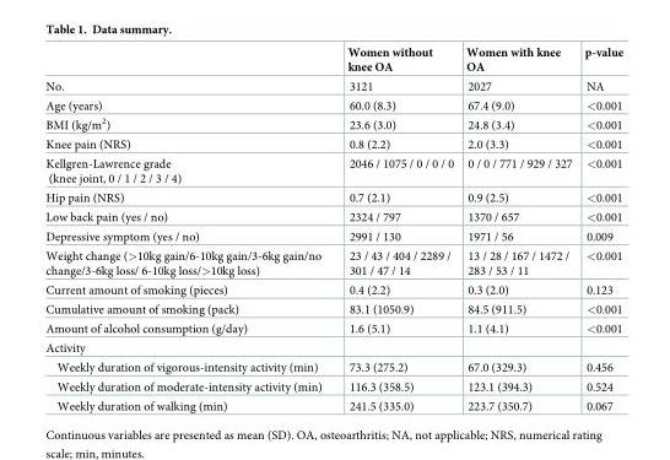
<table><thead><tr><td></td><td>Women without knee OA</td><td>Women with knee OA</td><td>p-value</td></tr></thead><tbody><tr><td>No.</td><td>3121</td><td>2027</td><td>NA</td></tr><tr><td>Age (years)</td><td>60.0 (8.3)</td><td>67.4 (9.0)</td><td>&lt;0.001</td></tr><tr><td>BMI (kg/m<sup>2</sup>)</td><td>23.6 (3.0)</td><td>24.8 (3.4)</td><td>&lt;0.001</td></tr><tr><td>Knee pain (NRS)</td><td>0.8 (2.2)</td><td>2.0 (3.3)</td><td>&lt;0.001</td></tr><tr><td>Kellgren-Lawrence grade (knee joint, 0 / 1 / 2 / 3 / 4)</td><td>2046 / 1075 / 0 / 0 / 0</td><td>0 / 0 / 771 / 929 / 327</td><td>&lt;0.001</td></tr><tr><td>Hip pain (NRS)</td><td>0.7 (2.1)</td><td>0.9 (2.5)</td><td>&lt;0.001</td></tr><tr><td>Low back pain (yes / no)</td><td>2324 / 797</td><td>1370 / 657</td><td>&lt;0.001</td></tr><tr><td>Depressive symptom (yes / no)</td><td>2991 / 130</td><td>1971 / 56</td><td>0.009</td></tr><tr><td>Weight change (&gt;10kg gain/6-10kg gain/3-6kg gain/no change/3-6kg loss/ 6-10kg loss/&gt;10kg loss)</td><td>23 / 43 / 404 / 2289 / 301 / 47 / 14</td><td>13 / 28 / 167 / 1472 / 283 / 53 / 11</td><td>&lt;0.001</td></tr><tr><td>Current amount of smoking (pieces)</td><td>0.4 (2.2)</td><td>0.3 (2.0)</td><td>0.123</td></tr><tr><td>Cumulative amount of smoking (pack)</td><td>83.1 (1050.9)</td><td>84.5 (911.5)</td><td>&lt;0.001</td></tr><tr><td>Amount of alcohol consumption (g/day)</td><td>1.6 (5.1)</td><td>1.1 (4.1)</td><td>&lt;0.001</td></tr><tr><td colspan="4">Activity</td></tr><tr><td>Weekly duration of vigorous-intensity activity (min)</td><td>73.3 (275.2)</td><td>67.0 (329.3)</td><td>0.456</td></tr><tr><td>Weekly duration of moderate-intensity activity (min)</td><td>116.3 (358.5)</td><td>123.1 (394.3)</td><td>0.524</td></tr><tr><td>Weekly duration of walking (min)</td><td>241.5 (335.0)</td><td>223.7 (350.7)</td><td>0.067</td></tr></tbody></table>